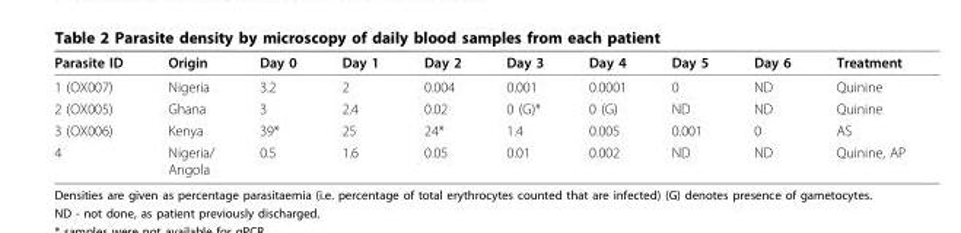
<table><thead><tr><td>Parasite ID</td><td>Origin</td><td>Day 0</td><td>Day 1</td><td>Day 2</td><td>Day 3</td><td>Day 4</td><td>Day 5</td><td>Day 6</td><td>Treatment</td></tr></thead><tbody><tr><td>1 (OX007)</td><td>Nigeria</td><td>3.2</td><td>2</td><td>0.004</td><td>0.001</td><td>0.0001</td><td>0</td><td>ND</td><td>Quinine</td></tr><tr><td>2 (OX005)</td><td>Ghana</td><td>3</td><td>2.4</td><td>0.02</td><td>0 (G)*</td><td>0 (G)</td><td>ND</td><td>ND</td><td>Quinine</td></tr><tr><td>3 (OX006)</td><td>Kenya</td><td>39*</td><td>25</td><td>24*</td><td>1.4</td><td>0.005</td><td>0.001</td><td>0</td><td>AS</td></tr><tr><td>4</td><td>Nigeria/ Angola</td><td>0.5</td><td>1.6</td><td>0.05</td><td>0.01</td><td>0.002</td><td>ND</td><td>ND</td><td>Quinine, AP</td></tr></tbody></table>